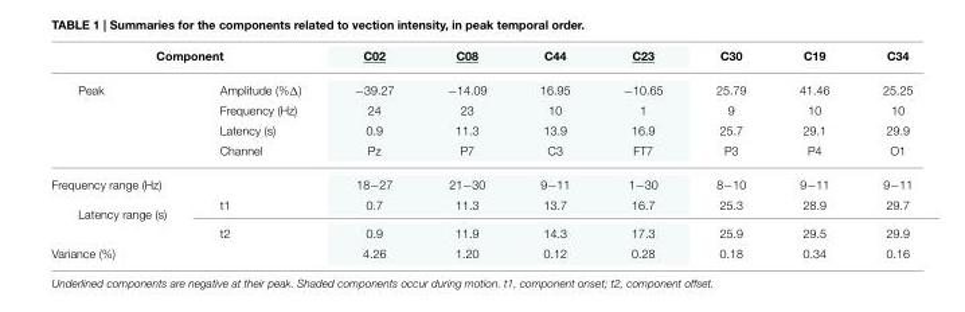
<table><thead><tr><td colspan="2">Component</td><td rowspan="2">C02 −39.27</td><td rowspan="2">C08 −14.09</td><td rowspan="2">C44 16.95</td><td rowspan="2">C23 −10.65</td><td rowspan="2">C30 25.79</td><td rowspan="2">C19 41.46</td><td rowspan="2">C34 25.25</td></tr><tr><td>Peak</td><td>Amplitude (%Δ)</td></tr></thead><tbody><tr><td></td><td>Frequency (Hz)</td><td>24</td><td>23</td><td>10</td><td>1</td><td>9</td><td>10</td><td>10</td></tr><tr><td></td><td>Latency (s)</td><td>0.9</td><td>11.3</td><td>13.9</td><td>16.9</td><td>25.7</td><td>29.1</td><td>29.9</td></tr><tr><td></td><td>Channel</td><td>Pz</td><td>P7</td><td>C3</td><td>FT7</td><td>P3</td><td>P4</td><td>O1</td></tr><tr><td>Frequency range (Hz)</td><td></td><td>18−27</td><td>21−30</td><td>9−11</td><td>1−30</td><td>8−10</td><td>9−11</td><td>9−11</td></tr><tr><td rowspan="2">Latency range (s)</td><td>t1</td><td>0.7</td><td>11.3</td><td>13.7</td><td>16.7</td><td>25.3</td><td>28.9</td><td>29.7</td></tr><tr><td>t2</td><td>0.9</td><td>11.9</td><td>14.3</td><td>17.3</td><td>25.9</td><td>29.5</td><td>29.9</td></tr><tr><td colspan="2">Variance (%)</td><td>4.26</td><td>1.20</td><td>0.12</td><td>0.28</td><td>0.18</td><td>0.34</td><td>0.16</td></tr></tbody></table>